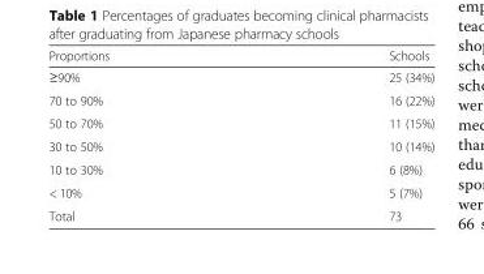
<table><thead><tr><td>Proportions</td><td>Schools</td></tr></thead><tbody><tr><td>≥90%</td><td>25 (34%)</td></tr><tr><td>70 to 90%</td><td>16 (22%)</td></tr><tr><td>50 to 70%</td><td>11 (15%)</td></tr><tr><td>30 to 50%</td><td>10 (14%)</td></tr><tr><td>10 to 30%</td><td>6 (8%)</td></tr><tr><td>&lt; 10%</td><td>5 (7%)</td></tr><tr><td>Total</td><td>73</td></tr></tbody></table>